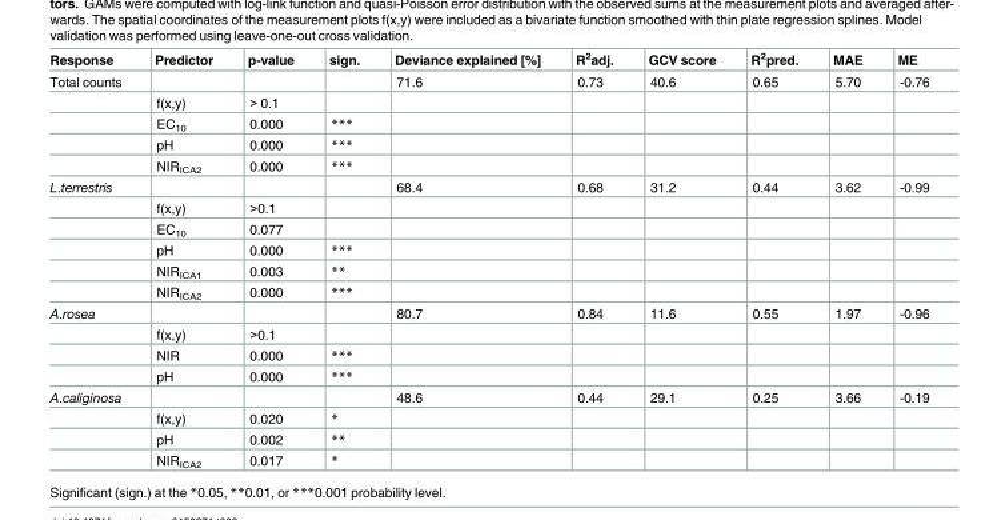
<table><thead><tr><td>Response</td><td>Predictor</td><td>p-value</td><td>sign.</td><td>Deviance explained [%]</td><td>R<sup>2</sup>adj.</td><td>GCV score</td><td>R<sup>2</sup>pred.</td><td>MAE</td><td>ME</td></tr></thead><tbody><tr><td rowspan="5">Total counts</td><td></td><td></td><td></td><td>71.6</td><td>0.73</td><td>40.6</td><td>0.65</td><td>5.70</td><td>-0.76</td></tr><tr><td>f(x,y)</td><td>&gt; 0.1</td><td></td><td></td><td></td><td></td><td></td><td></td><td></td></tr><tr><td>EC<sub>10</sub></td><td>0.000</td><td>***</td><td></td><td></td><td></td><td></td><td></td><td></td></tr><tr><td>pH</td><td>0.000</td><td>***</td><td></td><td></td><td></td><td></td><td></td><td></td></tr><tr><td>NIR<sub>ICA2</sub></td><td>0.000</td><td>***</td><td></td><td></td><td></td><td></td><td></td><td></td></tr><tr><td rowspan="6">L.terrestris</td><td></td><td></td><td></td><td>68.4</td><td>0.68</td><td>31.2</td><td>0.44</td><td>3.62</td><td>-0.99</td></tr><tr><td>f(x,y)</td><td>&gt;0.1</td><td></td><td></td><td></td><td></td><td></td><td></td><td></td></tr><tr><td>EC<sub>10</sub></td><td>0.077</td><td></td><td></td><td></td><td></td><td></td><td></td><td></td></tr><tr><td>pH</td><td>0.000</td><td>***</td><td></td><td></td><td></td><td></td><td></td><td></td></tr><tr><td>NIR<sub>ICA1</sub></td><td>0.003</td><td>**</td><td></td><td></td><td></td><td></td><td></td><td></td></tr><tr><td>NIR<sub>ICA2</sub></td><td>0.000</td><td>***</td><td></td><td></td><td></td><td></td><td></td><td></td></tr><tr><td rowspan="4">A.rosea</td><td></td><td></td><td></td><td>80.7</td><td>0.84</td><td>11.6</td><td>0.55</td><td>1.97</td><td>-0.96</td></tr><tr><td>f(x,y)</td><td>&gt;0.1</td><td></td><td></td><td></td><td></td><td></td><td></td><td></td></tr><tr><td>NIR</td><td>0.000</td><td>***</td><td></td><td></td><td></td><td></td><td></td><td></td></tr><tr><td>pH</td><td>0.000</td><td>***</td><td></td><td></td><td></td><td></td><td></td><td></td></tr><tr><td rowspan="4">A.caliginosa</td><td></td><td></td><td></td><td>48.6</td><td>0.44</td><td>29.1</td><td>0.25</td><td>3.66</td><td>-0.19</td></tr><tr><td>f(x,y)</td><td>0.020</td><td>*</td><td></td><td></td><td></td><td></td><td></td><td></td></tr><tr><td>pH</td><td>0.002</td><td>**</td><td></td><td></td><td></td><td></td><td></td><td></td></tr><tr><td>NIR<sub>ICA2</sub></td><td>0.017</td><td>*</td><td></td><td></td><td></td><td></td><td></td><td></td></tr></tbody></table>